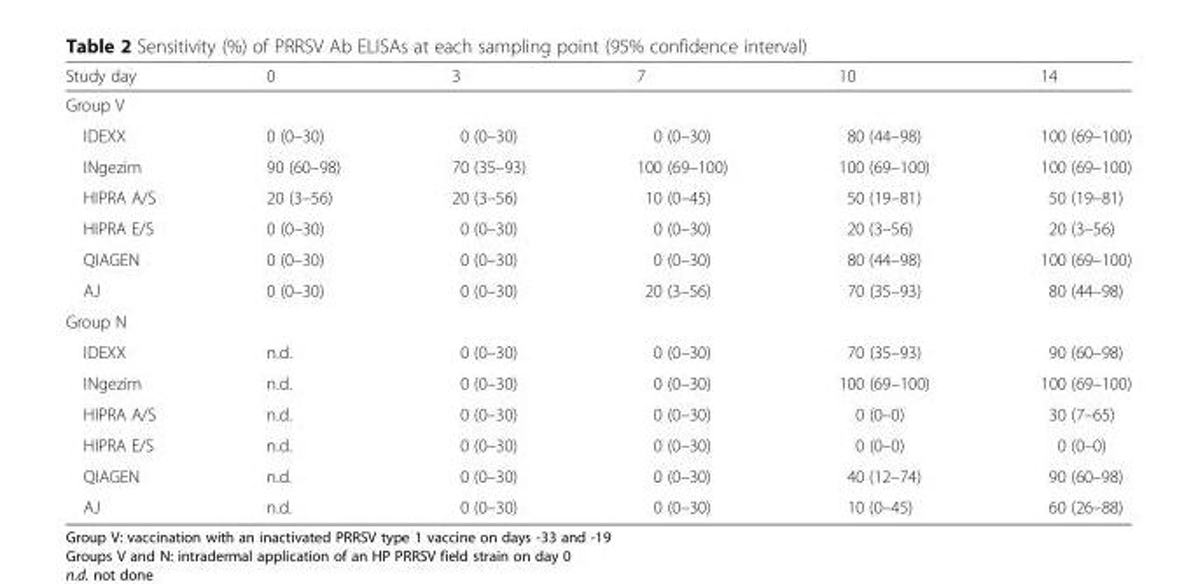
<table><thead><tr><td>Study day</td><td>0</td><td>3</td><td>7</td><td>10</td><td>14</td></tr></thead><tbody><tr><td colspan="6">Group V</td></tr><tr><td>IDEXX</td><td>0 (0–30)</td><td>0 (0–30)</td><td>0 (0–30)</td><td>80 (44–98)</td><td>100 (69–100)</td></tr><tr><td>INgezim</td><td>90 (60–98)</td><td>70 (35–93)</td><td>100 (69–100)</td><td>100 (69–100)</td><td>100 (69–100)</td></tr><tr><td>HIPRA A/S</td><td>20 (3–56)</td><td>20 (3–56)</td><td>10 (0–45)</td><td>50 (19–81)</td><td>50 (19–81)</td></tr><tr><td>HIPRA E/S</td><td>0 (0–30)</td><td>0 (0–30)</td><td>0 (0–30)</td><td>20 (3–56)</td><td>20 (3–56)</td></tr><tr><td>QIAGEN</td><td>0 (0–30)</td><td>0 (0–30)</td><td>0 (0–30)</td><td>80 (44–98)</td><td>100 (69–100)</td></tr><tr><td>AJ</td><td>0 (0–30)</td><td>0 (0–30)</td><td>20 (3–56)</td><td>70 (35–93)</td><td>80 (44–98)</td></tr><tr><td colspan="6">Group N</td></tr><tr><td>IDEXX</td><td>n.d.</td><td>0 (0–30)</td><td>0 (0–30)</td><td>70 (35–93)</td><td>90 (60–98)</td></tr><tr><td>INgezim</td><td>n.d.</td><td>0 (0–30)</td><td>0 (0–30)</td><td>100 (69–100)</td><td>100 (69–100)</td></tr><tr><td>HIPRA A/S</td><td>n.d.</td><td>0 (0–30)</td><td>0 (0–30)</td><td>0 (0–0)</td><td>30 (7–65)</td></tr><tr><td>HIPRA E/S</td><td>n.d.</td><td>0 (0–30)</td><td>0 (0–30)</td><td>0 (0–0)</td><td>0 (0–0)</td></tr><tr><td>QIAGEN</td><td>n.d.</td><td>0 (0–30)</td><td>0 (0–30)</td><td>40 (12–74)</td><td>90 (60–98)</td></tr><tr><td>AJ</td><td>n.d.</td><td>0 (0–30)</td><td>0 (0–30)</td><td>10 (0–45)</td><td>60 (26–88)</td></tr></tbody></table>